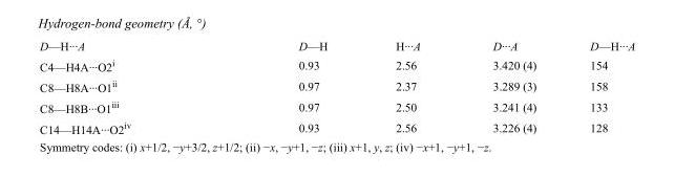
<table><tbody><tr><td>D—H···A</td><td>D—H</td><td>H···A</td><td>D···A</td><td>D—H···A</td></tr><tr><td>C4—H4A···O2<sup>i</sup></td><td>0.93</td><td>2.56</td><td>3.420 (4)</td><td>154</td></tr><tr><td>C8—H8A···O1<sup>ii</sup></td><td>0.97</td><td>2.37</td><td>3.289 (3)</td><td>158</td></tr><tr><td>C8—H8B···O1<sup>iii</sup></td><td>0.97</td><td>2.50</td><td>3.241 (4)</td><td>133</td></tr><tr><td>C14—H14A···O2<sup>iv</sup></td><td>0.93</td><td>2.56</td><td>3.226 (4)</td><td>128</td></tr></tbody></table>